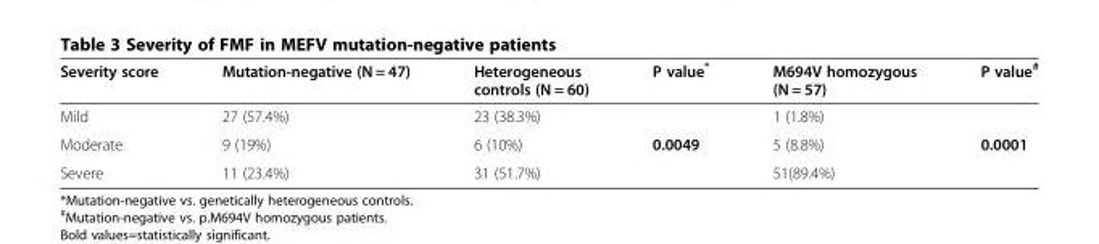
<table><thead><tr><td>Severity score</td><td>Mutation-negative (N = 47)</td><td>Heterogeneous controls (N = 60)</td><td>P value*</td><td>M694V homozygous (N = 57)</td><td>P value<sup>#</sup></td></tr></thead><tbody><tr><td>Mild</td><td>27 (57.4%)</td><td>23 (38.3%)</td><td></td><td>1 (1.8%)</td><td></td></tr><tr><td>Moderate</td><td>9 (19%)</td><td>6 (10%)</td><td>0.0049</td><td>5 (8.8%)</td><td>0.0001</td></tr><tr><td>Severe</td><td>11 (23.4%)</td><td>31 (51.7%)</td><td></td><td>51(89.4%)</td><td></td></tr></tbody></table>